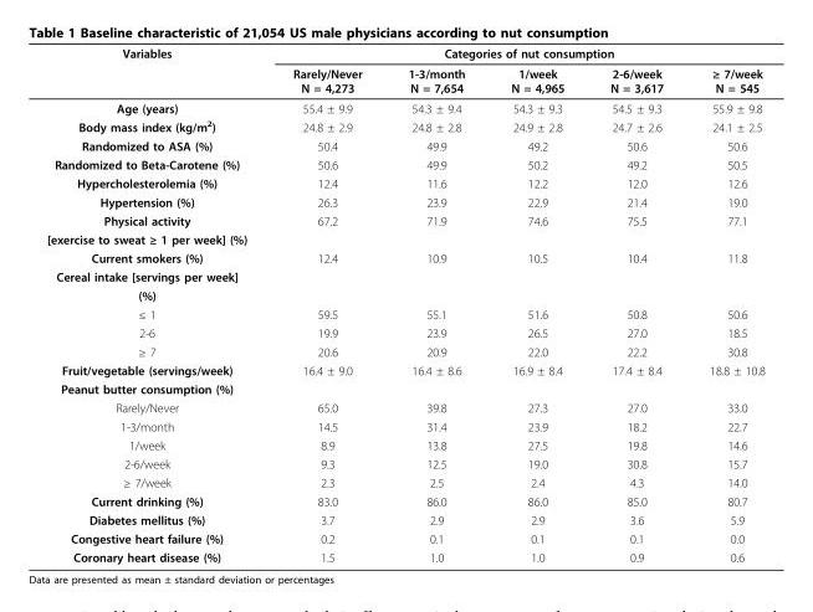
<table><thead><tr><td rowspan="2">Variables</td><td colspan="5">Categories of nut consumption</td></tr><tr><td>Rarely/Never N = 4,273</td><td>1-3/month N = 7,654</td><td>1/week N = 4,965</td><td>2-6/week N = 3,617</td><td>≥ 7/week N = 545</td></tr></thead><tbody><tr><td>Age (years)</td><td>55.4 ± 9.9</td><td>54.3 ± 9.4</td><td>54.3 ± 9.3</td><td>54.5 ± 9.3</td><td>55.9 ± 9.8</td></tr><tr><td>Body mass index (kg/m<sup>2</sup>)</td><td>24.8 ± 2.9</td><td>24.8 ± 2.8</td><td>24.9 ± 2.8</td><td>24.7 ± 2.6</td><td>24.1 ± 2.5</td></tr><tr><td>Randomized to ASA (%)</td><td>50.4</td><td>49.9</td><td>49.2</td><td>50.6</td><td>50.6</td></tr><tr><td>Randomized to Beta-Carotene (%)</td><td>50.6</td><td>49.9</td><td>50.2</td><td>49.2</td><td>50.5</td></tr><tr><td>Hypercholesterolemia (%)</td><td>12.4</td><td>11.6</td><td>12.2</td><td>12.0</td><td>12.6</td></tr><tr><td>Hypertension (%)</td><td>26.3</td><td>23.9</td><td>22.9</td><td>21.4</td><td>19.0</td></tr><tr><td>Physical activity</td><td>67.2</td><td>71.9</td><td>74.6</td><td>75.5</td><td>77.1</td></tr><tr><td colspan="6">[exercise to sweat ≥ 1 per week] (%)</td></tr><tr><td>Current smokers (%)</td><td>12.4</td><td>10.9</td><td>10.5</td><td>10.4</td><td>11.8</td></tr><tr><td colspan="6">Cereal intake [servings per week]</td></tr><tr><td colspan="6">(%)</td></tr><tr><td>≤ 1</td><td>59.5</td><td>55.1</td><td>51.6</td><td>50.8</td><td>50.6</td></tr><tr><td>2-6</td><td>19.9</td><td>23.9</td><td>26.5</td><td>27.0</td><td>18.5</td></tr><tr><td>≥ 7</td><td>20.6</td><td>20.9</td><td>22.0</td><td>22.2</td><td>30.8</td></tr><tr><td>Fruit/vegetable (servings/week)</td><td>16.4 ± 9.0</td><td>16.4 ± 8.6</td><td>16.9 ± 8.4</td><td>17.4 ± 8.4</td><td>18.8 ± 10.8</td></tr><tr><td colspan="6">Peanut butter consumption (%)</td></tr><tr><td>Rarely/Never</td><td>65.0</td><td>39.8</td><td>27.3</td><td>27.0</td><td>33.0</td></tr><tr><td>1-3/month</td><td>14.5</td><td>31.4</td><td>23.9</td><td>18.2</td><td>22.7</td></tr><tr><td>1/week</td><td>8.9</td><td>13.8</td><td>27.5</td><td>19.8</td><td>14.6</td></tr><tr><td>2-6/week</td><td>9.3</td><td>12.5</td><td>19.0</td><td>30.8</td><td>15.7</td></tr><tr><td>≥ 7/week</td><td>2.3</td><td>2.5</td><td>2.4</td><td>4.3</td><td>14.0</td></tr><tr><td>Current drinking (%)</td><td>83.0</td><td>86.0</td><td>86.0</td><td>85.0</td><td>80.7</td></tr><tr><td>Diabetes mellitus (%)</td><td>3.7</td><td>2.9</td><td>2.9</td><td>3.6</td><td>5.9</td></tr><tr><td>Congestive heart failure (%)</td><td>0.2</td><td>0.1</td><td>0.1</td><td>0.1</td><td>0.0</td></tr><tr><td>Coronary heart disease (%)</td><td>1.5</td><td>1.0</td><td>1.0</td><td>0.9</td><td>0.6</td></tr></tbody></table>